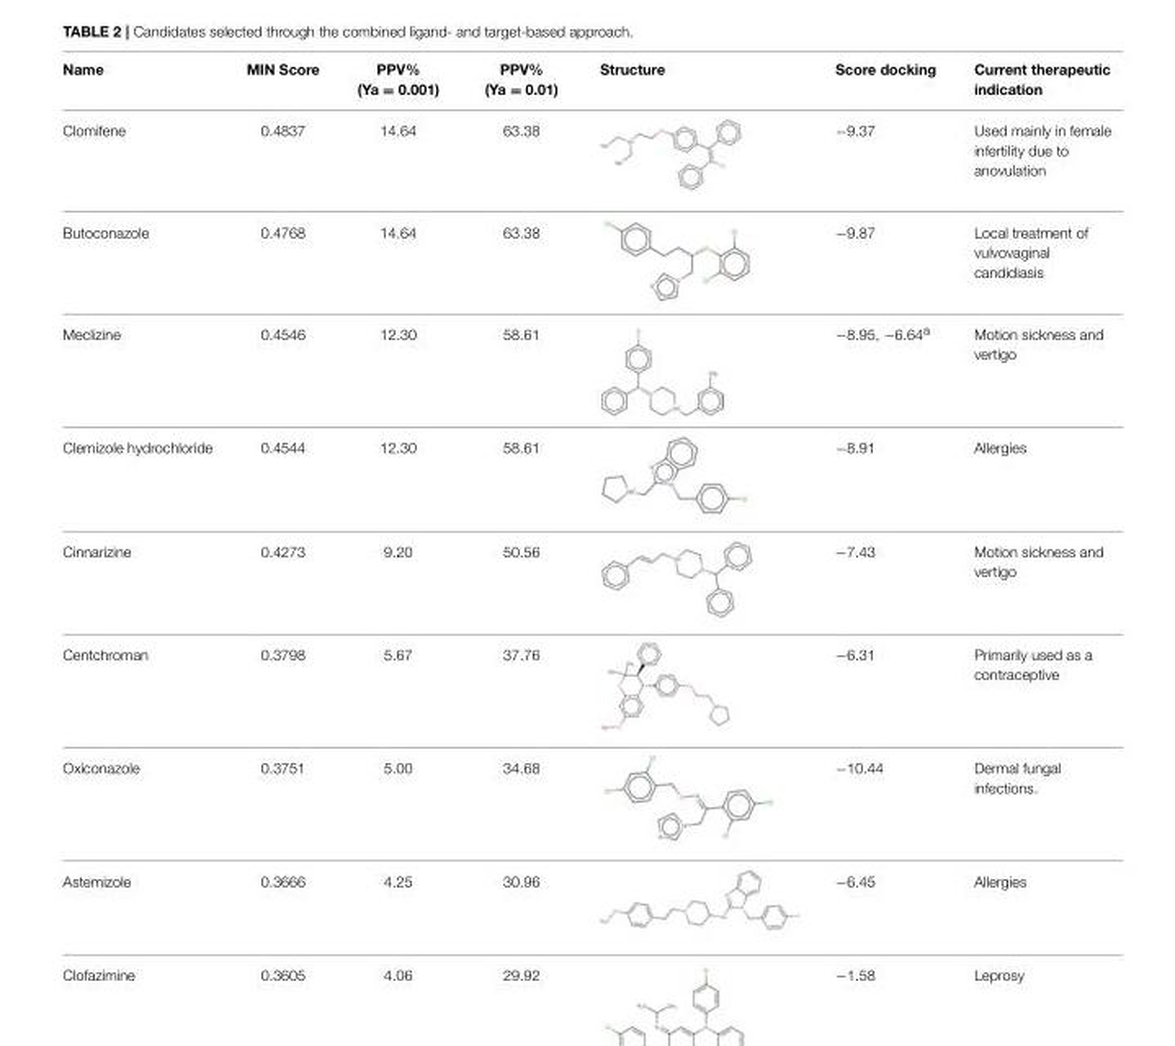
<table><thead><tr><td>Name</td><td>MIN Score</td><td>PPV% (Ya = 0.001)</td><td>PPV% (Ya = 0.01)</td><td>Structure</td><td>Score docking</td><td>Current therapeutic indication</td></tr></thead><tbody><tr><td>Clomifene</td><td>0.4837</td><td>14.64</td><td>63.38</td><td></td><td>−9.37</td><td>Used mainly in female infertility due to anovulation</td></tr><tr><td>Butoconazole</td><td>0.4768</td><td>14.64</td><td>63.38</td><td></td><td>−9.87</td><td>Local treatment of vulvovaginal candidiasis</td></tr><tr><td>Meclizine</td><td>0.4546</td><td>12.30</td><td>58.61</td><td></td><td>−8.95, −6.64<sup>a</sup></td><td>Motion sickness and vertigo</td></tr><tr><td>Clemizole hydrochloride</td><td>0.4544</td><td>12.30</td><td>58.61</td><td></td><td>−8.91</td><td>Allergies</td></tr><tr><td>Cinnarizine</td><td>0.4273</td><td>9.20</td><td>50.56</td><td></td><td>−7.43</td><td>Motion sickness and vertigo</td></tr><tr><td>Centchroman</td><td>0.3798</td><td>5.67</td><td>37.76</td><td></td><td>−6.31</td><td>Primarily used as a contraceptive</td></tr><tr><td>Oxiconazole</td><td>0.3751</td><td>5.00</td><td>34.68</td><td></td><td>−10.44</td><td>Dermal fungal infections.</td></tr><tr><td>Astemizole</td><td>0.3666</td><td>4.25</td><td>30.96</td><td></td><td>−6.45</td><td>Allergies</td></tr><tr><td>Clofazimine</td><td>0.3605</td><td>4.06</td><td>29.92</td><td></td><td>−1.58</td><td>Leprosy</td></tr></tbody></table>